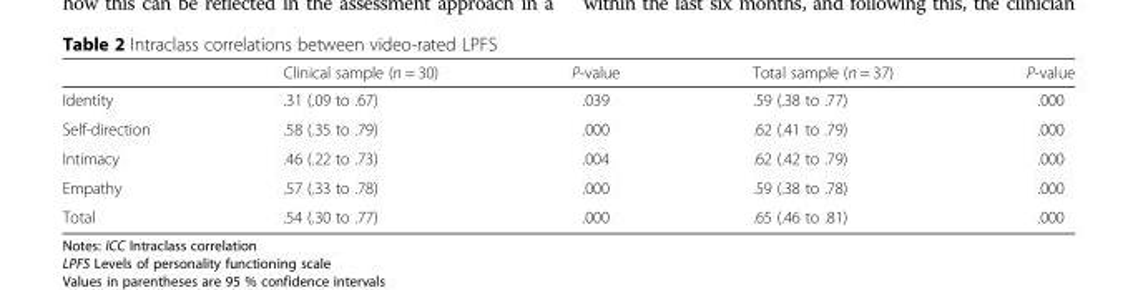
<table><thead><tr><td></td><td>Clinical sample (n = 30)</td><td>P-value</td><td>Total sample (n = 37)</td><td>P-value</td></tr></thead><tbody><tr><td>Identity</td><td>.31 (.09 to .67)</td><td>.039</td><td>.59 (.38 to .77)</td><td>.000</td></tr><tr><td>Self-direction</td><td>.58 (.35 to .79)</td><td>.000</td><td>.62 (.41 to .79)</td><td>.000</td></tr><tr><td>Intimacy</td><td>.46 (.22 to .73)</td><td>.004</td><td>.62 (.42 to .79)</td><td>.000</td></tr><tr><td>Empathy</td><td>.57 (.33 to .78)</td><td>.000</td><td>.59 (.38 to .78)</td><td>.000</td></tr><tr><td>Total</td><td>.54 (.30 to .77)</td><td>.000</td><td>.65 (.46 to .81)</td><td>.000</td></tr></tbody></table>